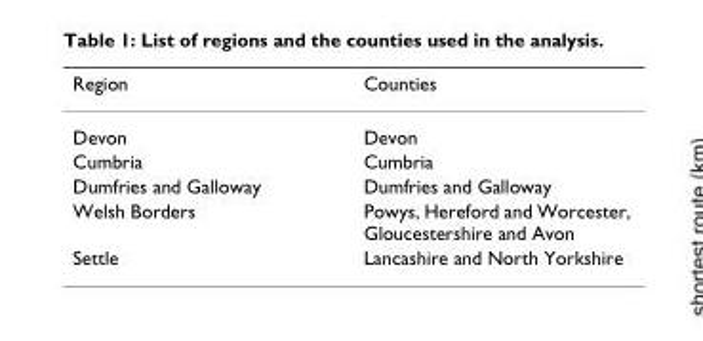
<table><thead><tr><td>Region</td><td>Counties</td></tr></thead><tbody><tr><td>Devon</td><td>Devon</td></tr><tr><td>Cumbria</td><td>Cumbria</td></tr><tr><td>Dumfries and Galloway</td><td>Dumfries and Galloway</td></tr><tr><td>Welsh Borders</td><td>Powys, Hereford and Worcester, Gloucestershire and Avon</td></tr><tr><td>Settle</td><td>Lancashire and North Yorkshire</td></tr></tbody></table>